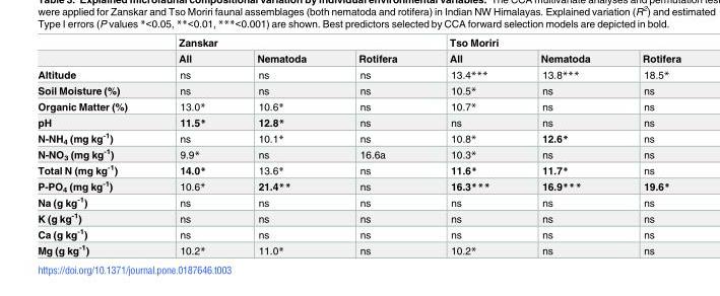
<table><thead><tr><td rowspan="2"></td><td colspan="3">Zanskar</td><td colspan="3">Tso Moriri</td></tr><tr><td>All</td><td>Nematoda</td><td>Rotifera</td><td>All</td><td>Nematoda</td><td>Rotifera</td></tr></thead><tbody><tr><td>Altitude</td><td>ns</td><td>ns</td><td>ns</td><td>13.4***</td><td>13.8***</td><td>18.5*</td></tr><tr><td>Soil Moisture (%)</td><td>ns</td><td>ns</td><td>ns</td><td>10.5*</td><td>ns</td><td>ns</td></tr><tr><td>Organic Matter (%)</td><td>13.0*</td><td>10.6*</td><td>ns</td><td>10.7*</td><td>ns</td><td>ns</td></tr><tr><td>pH</td><td>11.5*</td><td>12.8*</td><td>ns</td><td>ns</td><td>ns</td><td>ns</td></tr><tr><td>N-NH<sub>4</sub> (mg kg<sup>-1</sup>)</td><td>ns</td><td>10.1*</td><td>ns</td><td>10.8*</td><td>12.6*</td><td>ns</td></tr><tr><td>N-NO<sub>3</sub> (mg kg<sup>-1</sup>)</td><td>9.9*</td><td>ns</td><td>16.6a</td><td>10.3*</td><td>ns</td><td>ns</td></tr><tr><td>Total N (mg kg<sup>-1</sup>)</td><td>14.0*</td><td>13.6*</td><td>ns</td><td>11.6*</td><td>11.7*</td><td>ns</td></tr><tr><td>P-PO<sub>4</sub> (mg kg<sup>-1</sup>)</td><td>10.6*</td><td>21.4**</td><td>ns</td><td>16.3***</td><td>16.9***</td><td>19.6*</td></tr><tr><td>Na (g kg<sup>-1</sup>)</td><td>ns</td><td>ns</td><td>ns</td><td>ns</td><td>ns</td><td>ns</td></tr><tr><td>K (g kg<sup>-1</sup>)</td><td>ns</td><td>ns</td><td>ns</td><td>ns</td><td>ns</td><td>ns</td></tr><tr><td>Ca (g kg<sup>-1</sup>)</td><td>ns</td><td>ns</td><td>ns</td><td>ns</td><td>ns</td><td>ns</td></tr><tr><td>Mg (g kg<sup>-1</sup>)</td><td>10.2*</td><td>11.0*</td><td>ns</td><td>10.2*</td><td>ns</td><td>ns</td></tr></tbody></table>